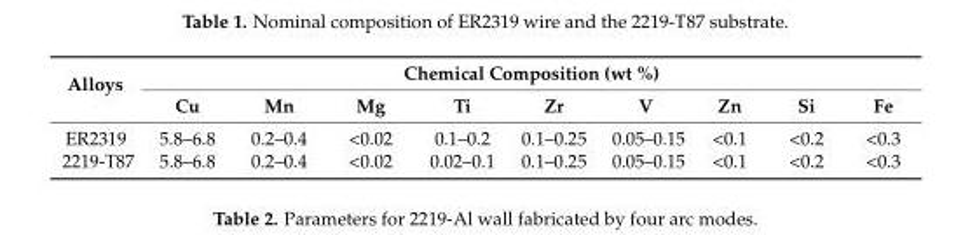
<table><thead><tr><td rowspan="2">Alloys</td><td colspan="9">Chemical Composition (wt %)</td></tr><tr><td>Cu</td><td>Mn</td><td>Mg</td><td>Ti</td><td>Zr</td><td>V</td><td>Zn</td><td>Si</td><td>Fe</td></tr></thead><tbody><tr><td>ER2319</td><td>5.8–6.8</td><td>0.2–0.4</td><td>&lt;0.02</td><td>0.1–0.2</td><td>0.1–0.25</td><td>0.05–0.15</td><td>&lt;0.1</td><td>&lt;0.2</td><td>&lt;0.3</td></tr><tr><td>2219-T87</td><td>5.8–6.8</td><td>0.2–0.4</td><td>&lt;0.02</td><td>0.02–0.1</td><td>0.1–0.25</td><td>0.05–0.15</td><td>&lt;0.1</td><td>&lt;0.2</td><td>&lt;0.3</td></tr></tbody></table>